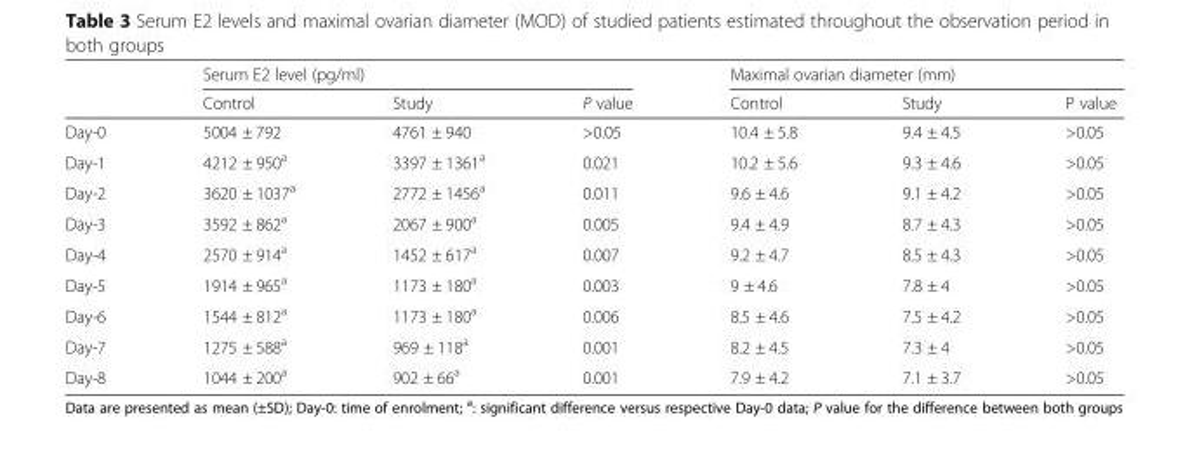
<table><thead><tr><td rowspan="2"></td><td colspan="3">Serum E2 level (pg/ml)</td><td colspan="3">Maximal ovarian diameter (mm)</td></tr><tr><td>Control</td><td>Study</td><td>P value</td><td>Control</td><td>Study</td><td>P value</td></tr></thead><tbody><tr><td>Day-0</td><td>5004 ± 792</td><td>4761 ± 940</td><td>&gt;0.05</td><td>10.4 ± 5.8</td><td>9.4 ± 4.5</td><td>&gt;0.05</td></tr><tr><td>Day-1</td><td>4212 ± 950<sup>a</sup></td><td>3397 ± 1361<sup>a</sup></td><td>0.021</td><td>10.2 ± 5.6</td><td>9.3 ± 4.6</td><td>&gt;0.05</td></tr><tr><td>Day-2</td><td>3620 ± 1037<sup>a</sup></td><td>2772 ± 1456<sup>a</sup></td><td>0.011</td><td>9.6 ± 4.6</td><td>9.1 ± 4.2</td><td>&gt;0.05</td></tr><tr><td>Day-3</td><td>3592 ± 862<sup>a</sup></td><td>2067 ± 900<sup>a</sup></td><td>0.005</td><td>9.4 ± 4.9</td><td>8.7 ± 4.3</td><td>&gt;0.05</td></tr><tr><td>Day-4</td><td>2570 ± 914<sup>a</sup></td><td>1452 ± 617<sup>a</sup></td><td>0.007</td><td>9.2 ± 4.7</td><td>8.5 ± 4.3</td><td>&gt;0.05</td></tr><tr><td>Day-5</td><td>1914 ± 965<sup>a</sup></td><td>1173 ± 180<sup>a</sup></td><td>0.003</td><td>9 ± 4.6</td><td>7.8 ± 4</td><td>&gt;0.05</td></tr><tr><td>Day-6</td><td>1544 ± 812<sup>a</sup></td><td>1173 ± 180<sup>a</sup></td><td>0.006</td><td>8.5 ± 4.6</td><td>7.5 ± 4.2</td><td>&gt;0.05</td></tr><tr><td>Day-7</td><td>1275 ± 588<sup>a</sup></td><td>969 ± 118<sup>a</sup></td><td>0.001</td><td>8.2 ± 4.5</td><td>7.3 ± 4</td><td>&gt;0.05</td></tr><tr><td>Day-8</td><td>1044 ± 200<sup>a</sup></td><td>902 ± 66<sup>a</sup></td><td>0.001</td><td>7.9 ± 4.2</td><td>7.1 ± 3.7</td><td>&gt;0.05</td></tr></tbody></table>